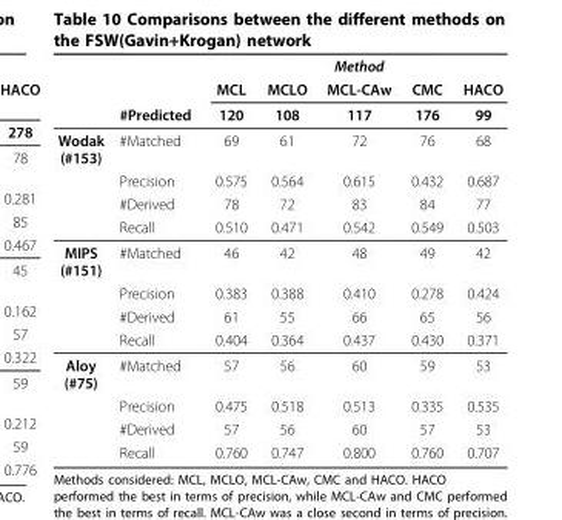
<table><thead><tr><td rowspan="3"></td><td rowspan="3">#Predicted</td><td colspan="5">Method</td></tr><tr><td rowspan="2">MCL 120</td><td rowspan="2">MCLO 108</td><td rowspan="2">MCL-CAw 117</td><td rowspan="2">CMC 176</td><td rowspan="2">HACO 99</td></tr><tr></tr></thead><tbody><tr><td rowspan="4">Wodak (#153)</td><td>#Matched</td><td>69</td><td>61</td><td>72</td><td>76</td><td>68</td></tr><tr><td>Precision</td><td>0.575</td><td>0.564</td><td>0.615</td><td>0.432</td><td>0.687</td></tr><tr><td>#Derived</td><td>78</td><td>72</td><td>83</td><td>84</td><td>77</td></tr><tr><td>Recall</td><td>0.510</td><td>0.471</td><td>0.542</td><td>0.549</td><td>0.503</td></tr><tr><td rowspan="4">MIPS (#151)</td><td>#Matched</td><td>46</td><td>42</td><td>48</td><td>49</td><td>42</td></tr><tr><td>Precision</td><td>0.383</td><td>0.388</td><td>0.410</td><td>0.278</td><td>0.424</td></tr><tr><td>#Derived</td><td>61</td><td>55</td><td>66</td><td>65</td><td>56</td></tr><tr><td>Recall</td><td>0.404</td><td>0.364</td><td>0.437</td><td>0.430</td><td>0.371</td></tr><tr><td rowspan="4">Aloy (#75)</td><td>#Matched</td><td>57</td><td>56</td><td>60</td><td>59</td><td>53</td></tr><tr><td>Precision</td><td>0.475</td><td>0.518</td><td>0.513</td><td>0.335</td><td>0.535</td></tr><tr><td>#Derived</td><td>57</td><td>56</td><td>60</td><td>57</td><td>53</td></tr><tr><td>Recall</td><td>0.760</td><td>0.747</td><td>0.800</td><td>0.760</td><td>0.707</td></tr></tbody></table>